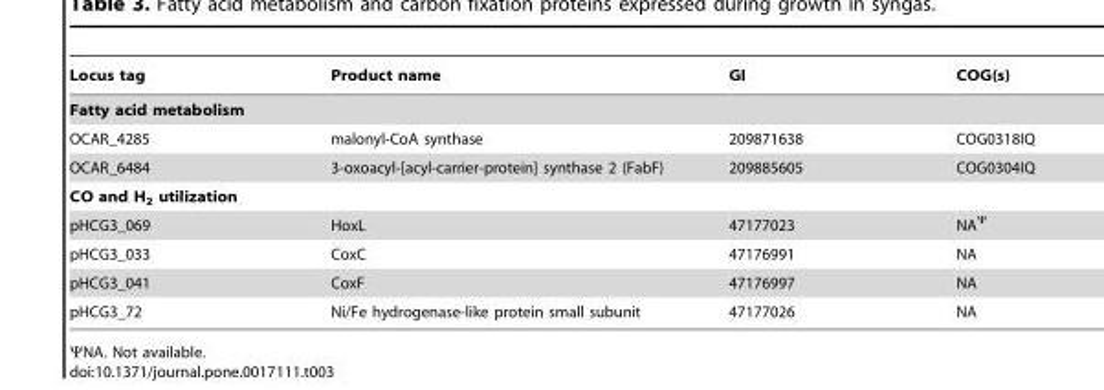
<table><thead><tr><td>Locus tag</td><td>Product name</td><td>GI</td><td>COG(s)</td></tr></thead><tbody><tr><td colspan="4">Fatty acid metabolism</td></tr><tr><td>OCAR_4285</td><td>malonyl-CoA synthase</td><td>209871638</td><td>COG0318IQ</td></tr><tr><td>OCAR_6484</td><td>3-oxoacyl-[acyl-carrier-protein] synthase 2 (FabF)</td><td>209885605</td><td>COG0304IQ</td></tr><tr><td colspan="4">CO and H<sub>2</sub> utilization</td></tr><tr><td>pHCG3_069</td><td>HoxL</td><td>47177023</td><td>NAΨ</td></tr><tr><td>pHCG3_033</td><td>CoxC</td><td>47176991</td><td>NA</td></tr><tr><td>pHCG3_041</td><td>CoxF</td><td>47176997</td><td>NA</td></tr><tr><td>pHCG3_72</td><td>Ni/Fe hydrogenase-like protein small subunit</td><td>47177026</td><td>NA</td></tr></tbody></table>